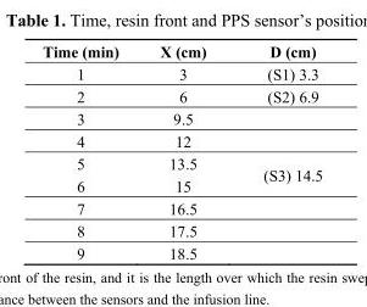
<table><thead><tr><td>Time (min)</td><td>X (cm)</td><td>D (cm)</td></tr></thead><tbody><tr><td>1</td><td>3</td><td>(S1) 3.3</td></tr><tr><td>2</td><td>6</td><td>(S2) 6.9</td></tr><tr><td>3</td><td>9.5</td><td></td></tr><tr><td>4</td><td>12</td><td></td></tr><tr><td>5</td><td>13.5</td><td rowspan="2">(S3) 14.5</td></tr><tr><td>6</td><td>15</td></tr><tr><td>7</td><td>16.5</td><td></td></tr><tr><td>8</td><td>17.5</td><td></td></tr><tr><td>9</td><td>18.5</td><td></td></tr></tbody></table>